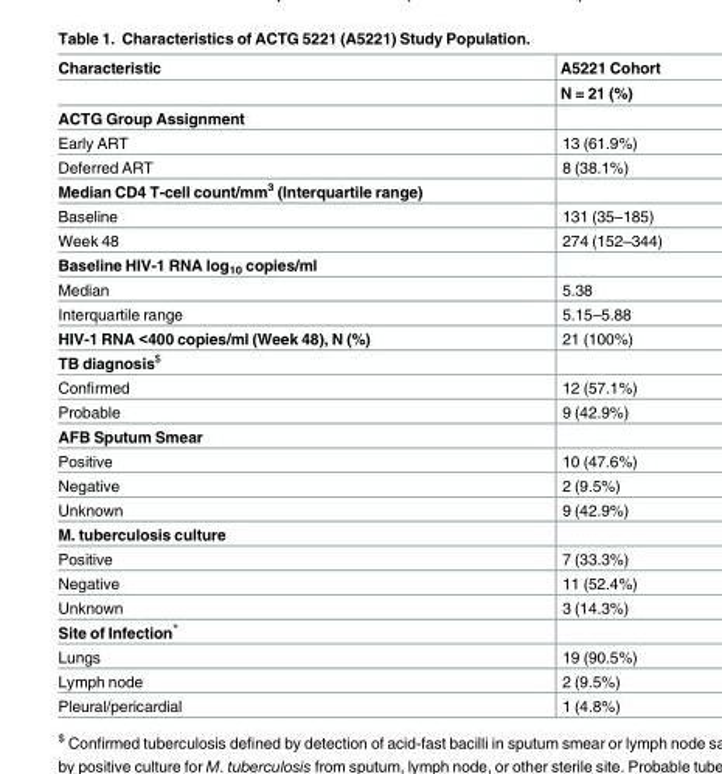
<table><thead><tr><td rowspan="2">Characteristic</td><td rowspan="2">A5221 Cohort N = 21 (%)</td></tr><tr></tr></thead><tbody><tr><td colspan="2">ACTG Group Assignment</td></tr><tr><td>Early ART</td><td>13 (61.9%)</td></tr><tr><td>Deferred ART</td><td>8 (38.1%)</td></tr><tr><td colspan="2">Median CD4 T-cell count/mm<sup>3</sup> (Interquartile range)</td></tr><tr><td>Baseline</td><td>131 (35–185)</td></tr><tr><td>Week 48</td><td>274 (152–344)</td></tr><tr><td colspan="2">Baseline HIV-1 RNA log<sub>10</sub> copies/ml</td></tr><tr><td>Median</td><td>5.38</td></tr><tr><td>Interquartile range</td><td>5.15–5.88</td></tr><tr><td>HIV-1 RNA &lt;400 copies/ml (Week 48), N (%)</td><td>21 (100%)</td></tr><tr><td colspan="2">TB diagnosis<sup>$</sup></td></tr><tr><td>Confirmed</td><td>12 (57.1%)</td></tr><tr><td>Probable</td><td>9 (42.9%)</td></tr><tr><td colspan="2">AFB Sputum Smear</td></tr><tr><td>Positive</td><td>10 (47.6%)</td></tr><tr><td>Negative</td><td>2 (9.5%)</td></tr><tr><td>Unknown</td><td>9 (42.9%)</td></tr><tr><td colspan="2">M. tuberculosis culture</td></tr><tr><td>Positive</td><td>7 (33.3%)</td></tr><tr><td>Negative</td><td>11 (52.4%)</td></tr><tr><td>Unknown</td><td>3 (14.3%)</td></tr><tr><td colspan="2">Site of Infection*</td></tr><tr><td>Lungs</td><td>19 (90.5%)</td></tr><tr><td>Lymph node</td><td>2 (9.5%)</td></tr><tr><td>Pleural/pericardial</td><td>1 (4.8%)</td></tr></tbody></table>